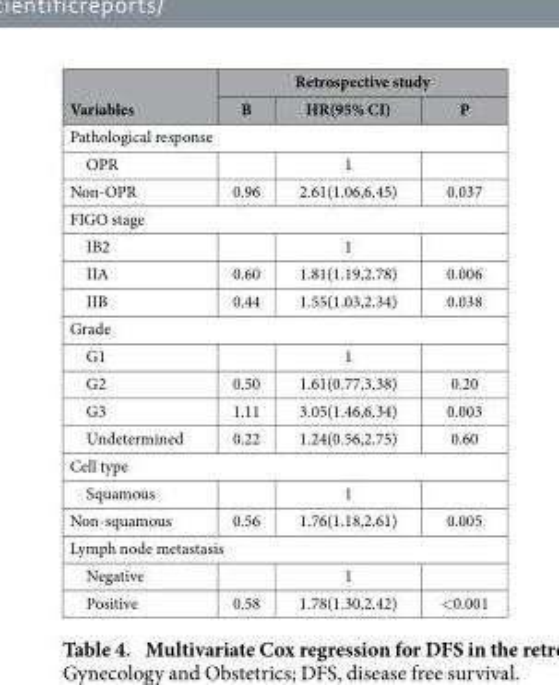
<table><thead><tr><td rowspan="2">Variables</td><td colspan="3">Retrospective study</td></tr><tr><td>B</td><td>HR(95% CI)</td><td>P</td></tr></thead><tbody><tr><td colspan="4">Pathological response</td></tr><tr><td>OPR</td><td></td><td>1</td><td></td></tr><tr><td>Non-OPR</td><td>0.96</td><td>2.61(1.06,6.45)</td><td>0.037</td></tr><tr><td colspan="4">FIGO stage</td></tr><tr><td>IB2</td><td></td><td>1</td><td></td></tr><tr><td>IIA</td><td>0.60</td><td>1.81(1.19,2.78)</td><td>0.006</td></tr><tr><td>IIB</td><td>0.44</td><td>1.55(1.03,2.34)</td><td>0.038</td></tr><tr><td colspan="4">Grade</td></tr><tr><td>G1</td><td></td><td>1</td><td></td></tr><tr><td>G2</td><td>0.50</td><td>1.61(0.77,3.38)</td><td>0.20</td></tr><tr><td>G3</td><td>1.11</td><td>3.05(1.46,6.34)</td><td>0.003</td></tr><tr><td>Undetermined</td><td>0.22</td><td>1.24(0.56,2.75)</td><td>0.60</td></tr><tr><td colspan="4">Cell type</td></tr><tr><td>Squamous</td><td></td><td>1</td><td></td></tr><tr><td>Non-squamous</td><td>0.56</td><td>1.76(1.18,2.61)</td><td>0.005</td></tr><tr><td colspan="4">Lymph node metastasis</td></tr><tr><td>Negative</td><td></td><td>1</td><td></td></tr><tr><td>Positive</td><td>0.58</td><td>1.78(1.30,2.42)</td><td>&lt; 0.001</td></tr></tbody></table>